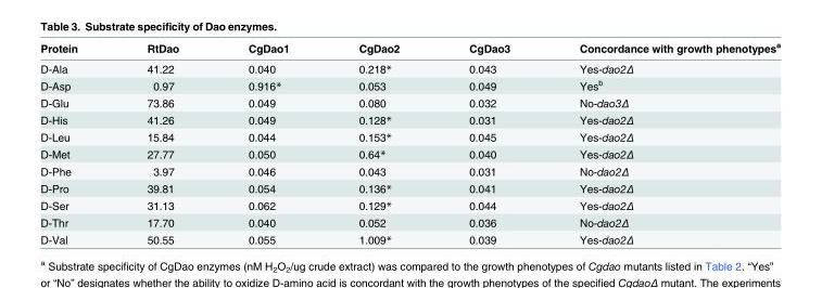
<table><thead><tr><td>Protein</td><td>RtDao</td><td>CgDao1</td><td>CgDao2</td><td>CgDao3</td><td>Concordance with growth phenotypes<sup>a</sup></td></tr></thead><tbody><tr><td>D-Ala</td><td>41.22</td><td>0.040</td><td>0.218*</td><td>0.043</td><td>Yes-dao2Δ</td></tr><tr><td>D-Asp</td><td>0.97</td><td>0.916*</td><td>0.053</td><td>0.049</td><td>Yes<sup>b</sup></td></tr><tr><td>D-Glu</td><td>73.86</td><td>0.049</td><td>0.080</td><td>0.032</td><td>No-dao3Δ</td></tr><tr><td>D-His</td><td>41.26</td><td>0.049</td><td>0.128*</td><td>0.031</td><td>Yes-dao2Δ</td></tr><tr><td>D-Leu</td><td>15.84</td><td>0.044</td><td>0.153*</td><td>0.045</td><td>Yes-dao2Δ</td></tr><tr><td>D-Met</td><td>27.77</td><td>0.050</td><td>0.64*</td><td>0.040</td><td>Yes-dao2Δ</td></tr><tr><td>D-Phe</td><td>3.97</td><td>0.046</td><td>0.043</td><td>0.031</td><td>No-dao2Δ</td></tr><tr><td>D-Pro</td><td>39.81</td><td>0.054</td><td>0.136*</td><td>0.041</td><td>Yes-dao2Δ</td></tr><tr><td>D-Ser</td><td>31.13</td><td>0.062</td><td>0.129*</td><td>0.044</td><td>Yes-dao2Δ</td></tr><tr><td>D-Thr</td><td>17.70</td><td>0.040</td><td>0.052</td><td>0.036</td><td>No-dao2Δ</td></tr><tr><td>D-Val</td><td>50.55</td><td>0.055</td><td>1.009*</td><td>0.039</td><td>Yes-dao2Δ</td></tr></tbody></table>